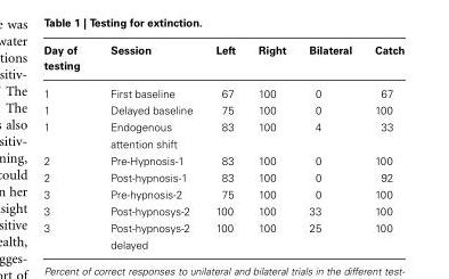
<table><thead><tr><td>Day of testing</td><td>Session</td><td>Left</td><td>Right</td><td>Bilateral</td><td>Catch</td></tr></thead><tbody><tr><td>1</td><td>First baseline</td><td>67</td><td>100</td><td>0</td><td>67</td></tr><tr><td>1</td><td>Delayed baseline</td><td>75</td><td>100</td><td>0</td><td>100</td></tr><tr><td>1</td><td>Endogenous attention shift</td><td>83</td><td>100</td><td>4</td><td>33</td></tr><tr><td>2</td><td>Pre-Hypnosis-1</td><td>83</td><td>100</td><td>0</td><td>100</td></tr><tr><td>2</td><td>Post-hypnosis-1</td><td>83</td><td>100</td><td>0</td><td>92</td></tr><tr><td>3</td><td>Pre-hypnosis-2</td><td>75</td><td>100</td><td>0</td><td>100</td></tr><tr><td>3</td><td>Post-hypnosys-2</td><td>100</td><td>100</td><td>33</td><td>100</td></tr><tr><td>3</td><td>Post-hypnosys-2</td><td>100</td><td>100</td><td>25</td><td>100</td></tr></tbody></table>